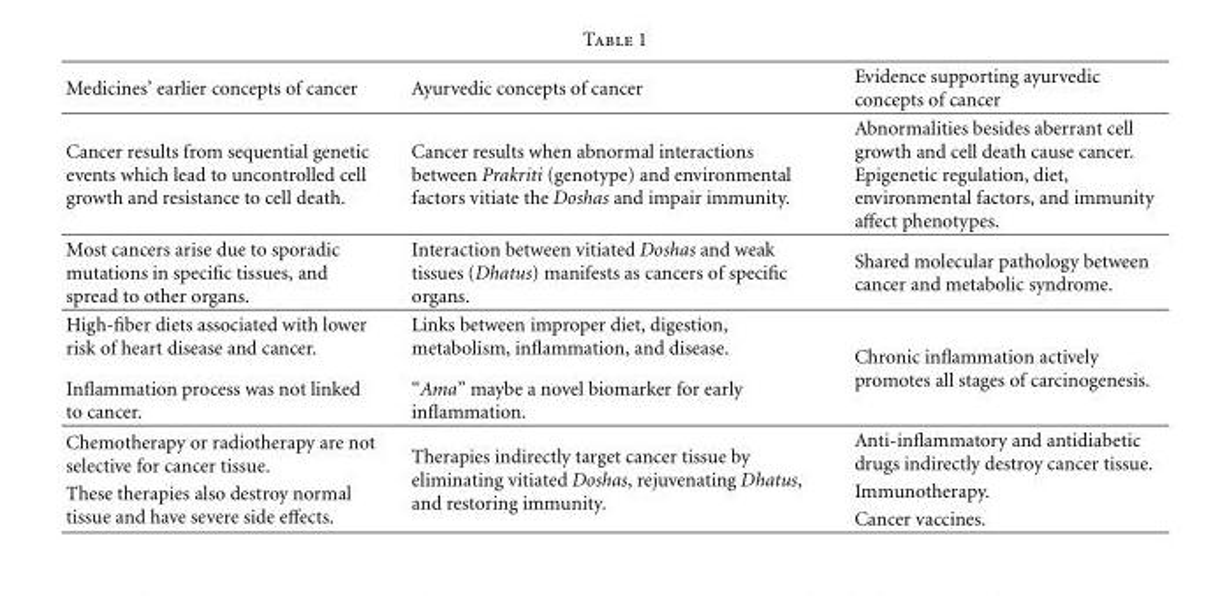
<table><thead><tr><td>Medicines’ earlier concepts of cancer</td><td>Ayurvedic concepts of cancer</td><td>Evidence supporting ayurvedic concepts of cancer</td></tr></thead><tbody><tr><td>Cancer results from sequential genetic events which lead to uncontrolled cell growth and resistance to cell death.</td><td>Cancer results when abnormal interactions between Prakriti (genotype) and environmental factors vitiate the Doshas and impair immunity.</td><td>Abnormalities besides aberrant cell growth and cell death cause cancer. Epigenetic regulation, diet, environmental factors, and immunity affect phenotypes.</td></tr><tr><td>Most cancers arise due to sporadic mutations in specific tissues, and spread to other organs.</td><td>Interaction between vitiated Doshas and weak tissues (Dhatus) manifests as cancers of specific organs.</td><td>Shared molecular pathology between cancer and metabolic syndrome.</td></tr><tr><td>High-fiber diets associated with lower risk of heart disease and cancer. Inflammation process was not linked to cancer.</td><td>Links between improper diet, digestion, metabolism, inflammation, and disease. “Ama” maybe a novel biomarker for early inflammation.</td><td>Chronic inflammation actively promotes all stages of carcinogenesis.</td></tr><tr><td>Chemotherapy or radiotherapy are not selective for cancer tissue. These therapies also destroy normal tissue and have severe side effects.</td><td>Therapies indirectly target cancer tissue by eliminating vitiated Doshas, rejuvenating Dhatus, and restoring immunity.</td><td>Anti-inflammatory and antidiabetic drugs indirectly destroy cancer tissue. Immunotherapy. Cancer vaccines.</td></tr></tbody></table>